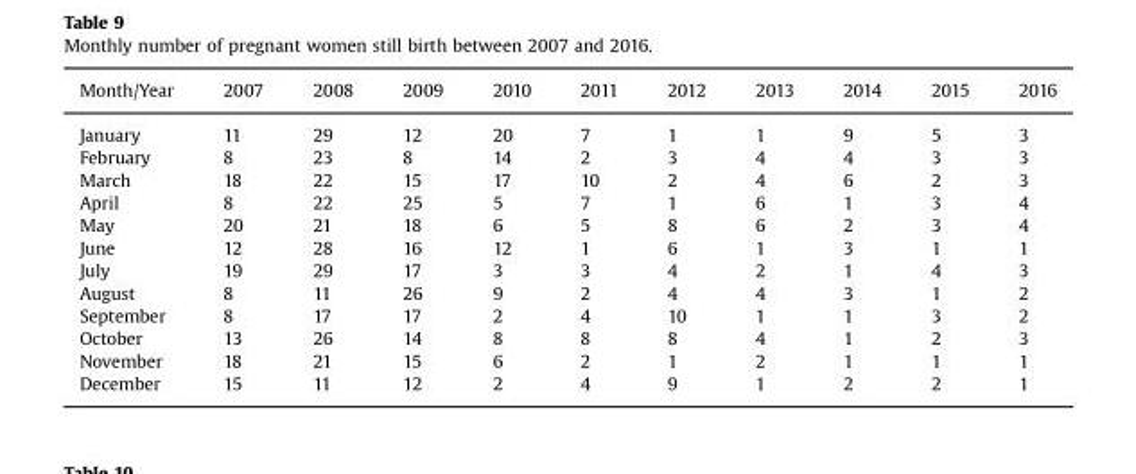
<table><thead><tr><td>Month/Year</td><td>2007</td><td>2008</td><td>2009</td><td>2010</td><td>2011</td><td>2012</td><td>2013</td><td>2014</td><td>2015</td><td>2016</td></tr></thead><tbody><tr><td>January</td><td>11</td><td>29</td><td>12</td><td>20</td><td>7</td><td>1</td><td>1</td><td>9</td><td>5</td><td>3</td></tr><tr><td>February</td><td>8</td><td>23</td><td>8</td><td>14</td><td>2</td><td>3</td><td>4</td><td>4</td><td>3</td><td>3</td></tr><tr><td>March</td><td>18</td><td>22</td><td>15</td><td>17</td><td>10</td><td>2</td><td>4</td><td>6</td><td>2</td><td>3</td></tr><tr><td>April</td><td>8</td><td>22</td><td>25</td><td>5</td><td>7</td><td>1</td><td>6</td><td>1</td><td>3</td><td>4</td></tr><tr><td>May</td><td>20</td><td>21</td><td>18</td><td>6</td><td>5</td><td>8</td><td>6</td><td>2</td><td>3</td><td>4</td></tr><tr><td>June</td><td>12</td><td>28</td><td>16</td><td>12</td><td>1</td><td>6</td><td>1</td><td>3</td><td>1</td><td>1</td></tr><tr><td>July</td><td>19</td><td>29</td><td>17</td><td>3</td><td>3</td><td>4</td><td>2</td><td>1</td><td>4</td><td>3</td></tr><tr><td>August</td><td>8</td><td>11</td><td>26</td><td>9</td><td>2</td><td>4</td><td>4</td><td>3</td><td>1</td><td>2</td></tr><tr><td>September</td><td>8</td><td>17</td><td>17</td><td>2</td><td>4</td><td>10</td><td>1</td><td>1</td><td>3</td><td>2</td></tr><tr><td>October</td><td>13</td><td>26</td><td>14</td><td>8</td><td>8</td><td>8</td><td>4</td><td>1</td><td>2</td><td>3</td></tr><tr><td>November</td><td>18</td><td>21</td><td>15</td><td>6</td><td>2</td><td>1</td><td>2</td><td>1</td><td>1</td><td>1</td></tr><tr><td>December</td><td>15</td><td>11</td><td>12</td><td>2</td><td>4</td><td>9</td><td>1</td><td>2</td><td>2</td><td>1</td></tr></tbody></table>